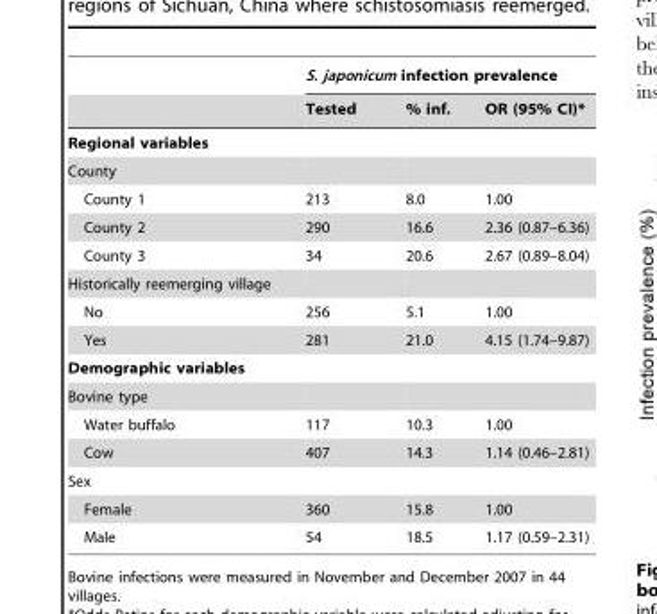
<table><thead><tr><td rowspan="2"></td><td colspan="3">S. japonicum infection prevalence</td></tr><tr><td>Tested</td><td>% inf.</td><td>OR (95% CI)*</td></tr></thead><tbody><tr><td colspan="4">Regional variables</td></tr><tr><td colspan="4">County</td></tr><tr><td>County 1</td><td>213</td><td>8.0</td><td>1.00</td></tr><tr><td>County 2</td><td>290</td><td>16.6</td><td>2.36 (0.87–6.36)</td></tr><tr><td>County 3</td><td>34</td><td>20.6</td><td>2.67 (0.89–8.04)</td></tr><tr><td colspan="4">Historically reemerging village</td></tr><tr><td>No</td><td>256</td><td>5.1</td><td>1.00</td></tr><tr><td>Yes</td><td>281</td><td>21.0</td><td>4.15 (1.74–9.87)</td></tr><tr><td colspan="4">Demographic variables</td></tr><tr><td colspan="4">Bovine type</td></tr><tr><td>Water buffalo</td><td>117</td><td>10.3</td><td>1.00</td></tr><tr><td>Cow</td><td>407</td><td>14.3</td><td>1.14 (0.46–2.81)</td></tr><tr><td colspan="4">Sex</td></tr><tr><td>Female</td><td>360</td><td>15.8</td><td>1.00</td></tr><tr><td>Male</td><td>54</td><td>18.5</td><td>1.17 (0.59–2.31)</td></tr></tbody></table>